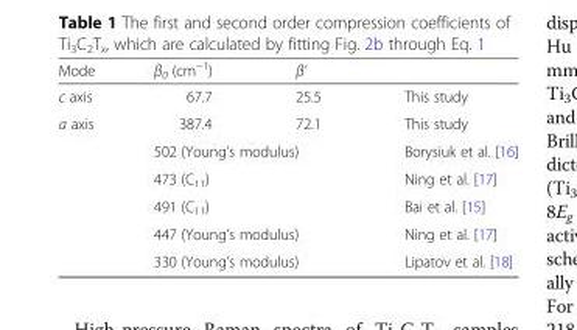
<table><thead><tr><td>Mode</td><td>β<sub>0</sub> (cm<sup>−1</sup>)</td><td>β’</td><td></td></tr></thead><tbody><tr><td>c axis</td><td>67.7</td><td>25.5</td><td>This study</td></tr><tr><td rowspan="6">a axis</td><td>387.4</td><td>72.1</td><td>This study</td></tr><tr><td colspan="2">502 (Young’s modulus)</td><td>Borysiuk et al. [16]</td></tr><tr><td colspan="2">473 (C<sub>11</sub>)</td><td>Ning et al. [17]</td></tr><tr><td colspan="2">491 (C<sub>11</sub>)</td><td>Bai et al. [15]</td></tr><tr><td colspan="2">447 (Young’s modulus)</td><td>Ning et al. [17]</td></tr><tr><td colspan="2">330 (Young’s modulus)</td><td>Lipatov et al. [18]</td></tr></tbody></table>